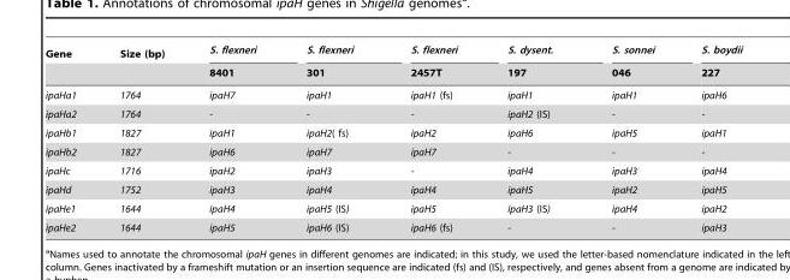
<table><thead><tr><td rowspan="2">Gene</td><td rowspan="2">Size (bp)</td><td rowspan="2">S. flexneri 8401</td><td rowspan="2">S. flexneri 301</td><td rowspan="2">S. flexneri 2457T</td><td rowspan="2">S. dysent. 197</td><td rowspan="2">S. sonnei 046</td><td rowspan="2">S. boydii 227</td></tr><tr></tr></thead><tbody><tr><td>ipaHa1</td><td>1764</td><td>ipaH7</td><td>ipaH1</td><td>ipaH1 (fs)</td><td>ipaH1</td><td>ipaH1</td><td>ipaH6</td></tr><tr><td>ipaHa2</td><td>1764</td><td>-</td><td>-</td><td>-</td><td>ipaH2 (IS)</td><td>-</td><td>-</td></tr><tr><td>ipaHb1</td><td>1827</td><td>ipaH1</td><td>ipaH2( fs)</td><td>ipaH2</td><td>ipaH6</td><td>ipaH5</td><td>ipaH1</td></tr><tr><td>ipaHb2</td><td>1827</td><td>ipaH6</td><td>ipaH7</td><td>ipaH7</td><td>-</td><td>-</td><td>-</td></tr><tr><td>ipaHc</td><td>1716</td><td>ipaH2</td><td>ipaH3</td><td>-</td><td>ipaH4</td><td>ipaH3</td><td>ipaH4</td></tr><tr><td>ipaHd</td><td>1752</td><td>ipaH3</td><td>ipaH4</td><td>ipaH4</td><td>ipaH5</td><td>ipaH2</td><td>ipaH5</td></tr><tr><td>ipaHe1</td><td>1644</td><td>ipaH4</td><td>ipaH5 (IS)</td><td>ipaH5</td><td>ipaH3 (IS)</td><td>ipaH4</td><td>ipaH2</td></tr><tr><td>ipaHe2</td><td>1644</td><td>ipaH5</td><td>ipaH6 (IS)</td><td>ipaH6 (fs)</td><td>-</td><td>-</td><td>ipaH3</td></tr></tbody></table>